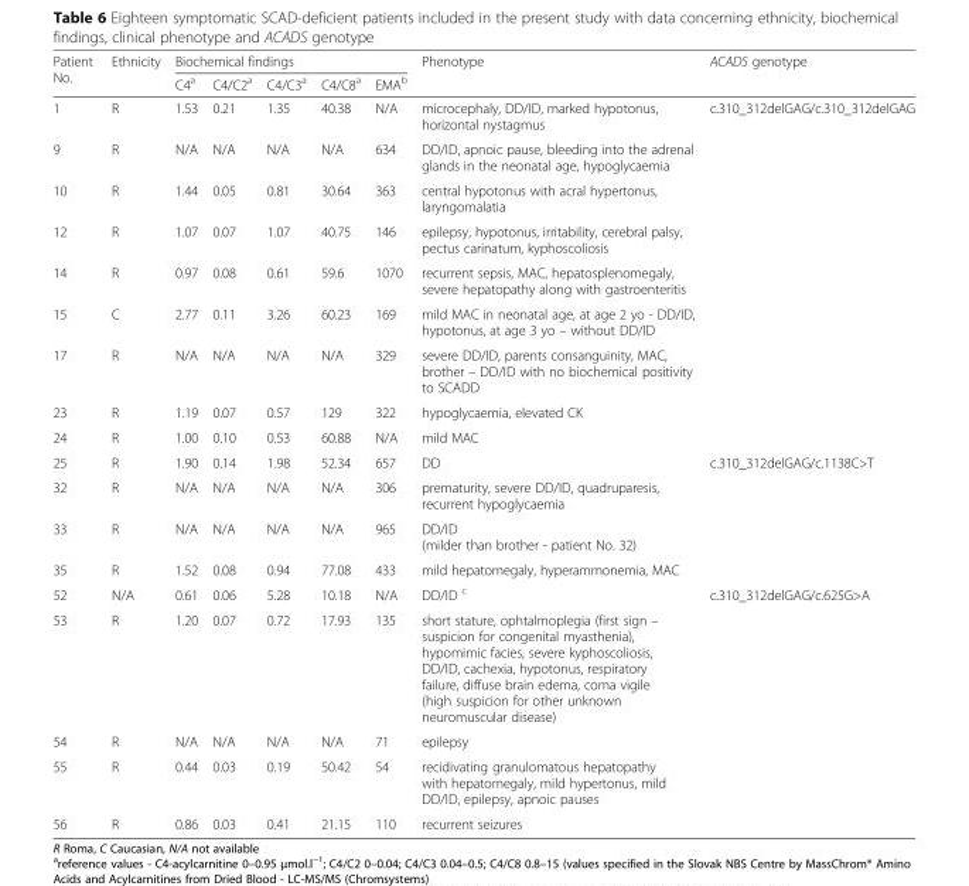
<table><thead><tr><td rowspan="2">Patient No.</td><td rowspan="2">Ethnicity</td><td colspan="5">Biochemical findings</td><td rowspan="2">Phenotype</td><td rowspan="2">ACADS genotype</td></tr><tr><td>C4<sup>a</sup></td><td>C4/C2<sup>a</sup></td><td>C4/C3<sup>a</sup></td><td>C4/C8<sup>a</sup></td><td>EMA<sup>b</sup></td></tr></thead><tbody><tr><td>1</td><td>R</td><td>1.53</td><td>0.21</td><td>1.35</td><td>40.38</td><td>N/A</td><td>microcephaly, DD/ID, marked hypotonus, horizontal nystagmus</td><td rowspan="9">c.310_312delGAG/c.310_312delGAG</td></tr><tr><td>9</td><td>R</td><td>N/A</td><td>N/A</td><td>N/A</td><td>N/A</td><td>634</td><td>DD/ID, apnoic pause, bleeding into the adrenal glands in the neonatal age, hypoglycaemia</td></tr><tr><td>10</td><td>R</td><td>1.44</td><td>0.05</td><td>0.81</td><td>30.64</td><td>363</td><td>central hypotonus with acral hypertonus, laryngomalatia</td></tr><tr><td>12</td><td>R</td><td>1.07</td><td>0.07</td><td>1.07</td><td>40.75</td><td>146</td><td>epilepsy, hypotonus, irritability, cerebral palsy, pectus carinatum, kyphoscoliosis</td></tr><tr><td>14</td><td>R</td><td>0.97</td><td>0.08</td><td>0.61</td><td>59.6</td><td>1070</td><td>recurrent sepsis, MAC, hepatosplenomegaly, severe hepatopathy along with gastroenteritis</td></tr><tr><td>15</td><td>C</td><td>2.77</td><td>0.11</td><td>3.26</td><td>60.23</td><td>169</td><td>mild MAC in neonatal age, at age 2 yo - DD/ID, hypotonus, at age 3 yo – without DD/ID</td></tr><tr><td>17</td><td>R</td><td>N/A</td><td>N/A</td><td>N/A</td><td>N/A</td><td>329</td><td>severe DD/ID, parents consanguinity, MAC, brother – DD/ID with no biochemical positivity to SCADD</td></tr><tr><td>23</td><td>R</td><td>1.19</td><td>0.07</td><td>0.57</td><td>129</td><td>322</td><td>hypoglycaemia, elevated CK</td></tr><tr><td>24</td><td>R</td><td>1.00</td><td>0.10</td><td>0.53</td><td>60.88</td><td>N/A</td><td>mild MAC</td></tr><tr><td>25</td><td>R</td><td>1.90</td><td>0.14</td><td>1.98</td><td>52.34</td><td>657</td><td>DD</td><td rowspan="4">c.310_312delGAG/c.1138C&gt;T</td></tr><tr><td>32</td><td>R</td><td>N/A</td><td>N/A</td><td>N/A</td><td>N/A</td><td>306</td><td>prematurity, severe DD/ID, quadruparesis, recurrent hypoglycaemia</td></tr><tr><td>33</td><td>R</td><td>N/A</td><td>N/A</td><td>N/A</td><td>N/A</td><td>965</td><td>DD/ID (milder than brother - patient No. 32)</td></tr><tr><td>35</td><td>R</td><td>1.52</td><td>0.08</td><td>0.94</td><td>77.08</td><td>433</td><td>mild hepatomegaly, hyperammonemia, MAC</td></tr><tr><td>52</td><td>N/A</td><td>0.61</td><td>0.06</td><td>5.28</td><td>10.18</td><td>N/A</td><td>DD/ID <sup>c</sup></td><td rowspan="5">c.310_312delGAG/c.625G&gt;A</td></tr><tr><td>53</td><td>R</td><td>1.20</td><td>0.07</td><td>0.72</td><td>17.93</td><td>135</td><td>short stature, ophtalmoplegia (first sign – suspicion for congenital myasthenia), hypomimic facies, severe kyphoscoliosis, DD/ID, cachexia, hypotonus, respiratory failure, diffuse brain edema, coma vigile (high suspicion for other unknown neuromuscular disease)</td></tr><tr><td>54</td><td>R</td><td>N/A</td><td>N/A</td><td>N/A</td><td>N/A</td><td>71</td><td>epilepsy</td></tr><tr><td>55</td><td>R</td><td>0.44</td><td>0.03</td><td>0.19</td><td>50.42</td><td>54</td><td>recidivating granulomatous hepatopathy with hepatomegaly, mild hypertonus, mild DD/ID, epilepsy, apnoic pauses</td></tr><tr><td>56</td><td>R</td><td>0.86</td><td>0.03</td><td>0.41</td><td>21.15</td><td>110</td><td>recurrent seizures</td></tr></tbody></table>